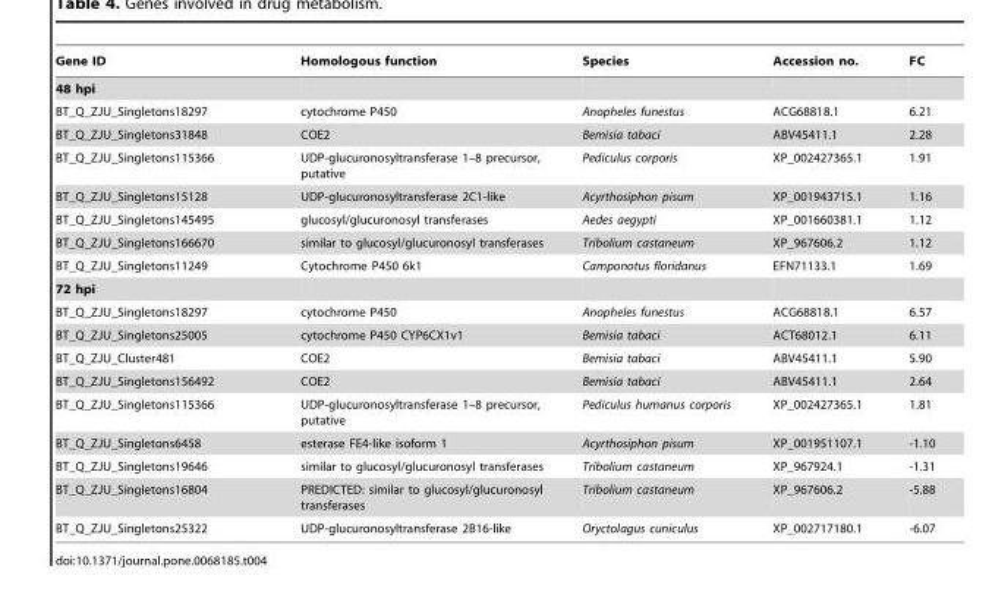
<table><thead><tr><td>Gene ID</td><td>Homologous function</td><td>Species</td><td>Accession no.</td><td>FC</td></tr></thead><tbody><tr><td colspan="5">48 hpi</td></tr><tr><td>BT_Q_ZJU_Singletons18297</td><td>cytochrome P450</td><td>Anopheles funestus</td><td>ACG68818.1</td><td>6.21</td></tr><tr><td>BT_Q_ZJU_Singletons31848</td><td>COE2</td><td>Bemisia tabaci</td><td>ABV45411.1</td><td>2.28</td></tr><tr><td>BT_Q_ZJU_Singletons115366</td><td>UDP-glucuronosyltransferase 1–8 precursor, putative</td><td>Pediculus corporis</td><td>XP_002427365.1</td><td>1.91</td></tr><tr><td>BT_Q_ZJU_Singletons15128</td><td>UDP-glucuronosyltransferase 2C1-like</td><td>Acyrthosiphon pisum</td><td>XP_001943715.1</td><td>1.16</td></tr><tr><td>BT_Q_ZJU_Singletons145495</td><td>glucosyl/glucuronosyl transferases</td><td>Aedes aegypti</td><td>XP_001660381.1</td><td>1.12</td></tr><tr><td>BT_Q_ZJU_Singletons166670</td><td>similar to glucosyl/glucuronosyl transferases</td><td>Tribolium castaneum</td><td>XP_967606.2</td><td>1.12</td></tr><tr><td>BT_Q_ZJU_Singletons11249</td><td>Cytochrome P450 6k1</td><td>Camponotus floridanus</td><td>EFN71133.1</td><td>1.69</td></tr><tr><td colspan="5">72 hpi</td></tr><tr><td>BT_Q_ZJU_Singletons18297</td><td>cytochrome P450</td><td>Anopheles funestus</td><td>ACG68818.1</td><td>6.57</td></tr><tr><td>BT_Q_ZJU_Singletons25005</td><td>cytochrome P450 CYP6CX1v1</td><td>Bemisia tabaci</td><td>ACT68012.1</td><td>6.11</td></tr><tr><td>BT_Q_ZJU_Cluster481</td><td>COE2</td><td>Bemisia tabaci</td><td>ABV45411.1</td><td>5.90</td></tr><tr><td>BT_Q_ZJU_Singletons156492</td><td>COE2</td><td>Bemisia tabaci</td><td>ABV45411.1</td><td>2.64</td></tr><tr><td>BT_Q_ZJU_Singletons115366</td><td>UDP-glucuronosyltransferase 1–8 precursor, putative</td><td>Pediculus humanus corporis</td><td>XP_002427365.1</td><td>1.81</td></tr><tr><td>BT_Q_ZJU_Singletons6458</td><td>esterase FE4-like isoform 1</td><td>Acyrthosiphon pisum</td><td>XP_001951107.1</td><td>-1.10</td></tr><tr><td>BT_Q_ZJU_Singletons19646</td><td>similar to glucosyl/glucuronosyl transferases</td><td>Tribolium castaneum</td><td>XP_967924.1</td><td>-1.31</td></tr><tr><td>BT_Q_ZJU_Singletons16804</td><td>PREDICTED: similar to glucosyl/glucuronosyl transferases</td><td>Tribolium castaneum</td><td>XP_967606.2</td><td>-5.88</td></tr><tr><td>BT_Q_ZJU_Singletons25322</td><td>UDP-glucuronosyltransferase 2B16-like</td><td>Oryctolagus cuniculus</td><td>XP_002717180.1</td><td>-6.07</td></tr></tbody></table>